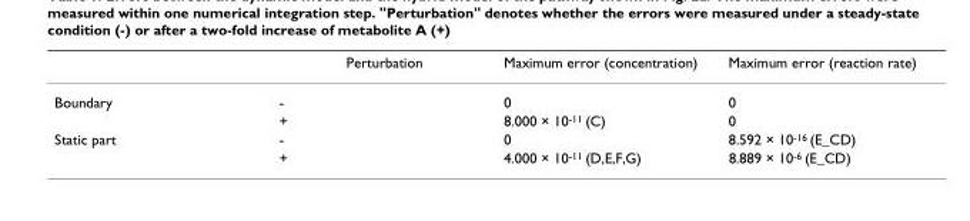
<table><thead><tr><td></td><td>Perturbation</td><td>Maximum error (concentration)</td><td>Maximum error (reaction rate)</td></tr></thead><tbody><tr><td rowspan="2">Boundary</td><td>-</td><td>0</td><td>0</td></tr><tr><td>+</td><td>8.000 × 10<sup>-11</sup> (C)</td><td>0</td></tr><tr><td rowspan="2">Static part</td><td>-</td><td>0</td><td>8.592 × 10<sup>-16</sup> (E_CD)</td></tr><tr><td>+</td><td>4.000 × 10<sup>-11</sup> (D,E,F,G)</td><td>8.889 × 10<sup>-6</sup> (E_CD)</td></tr></tbody></table>